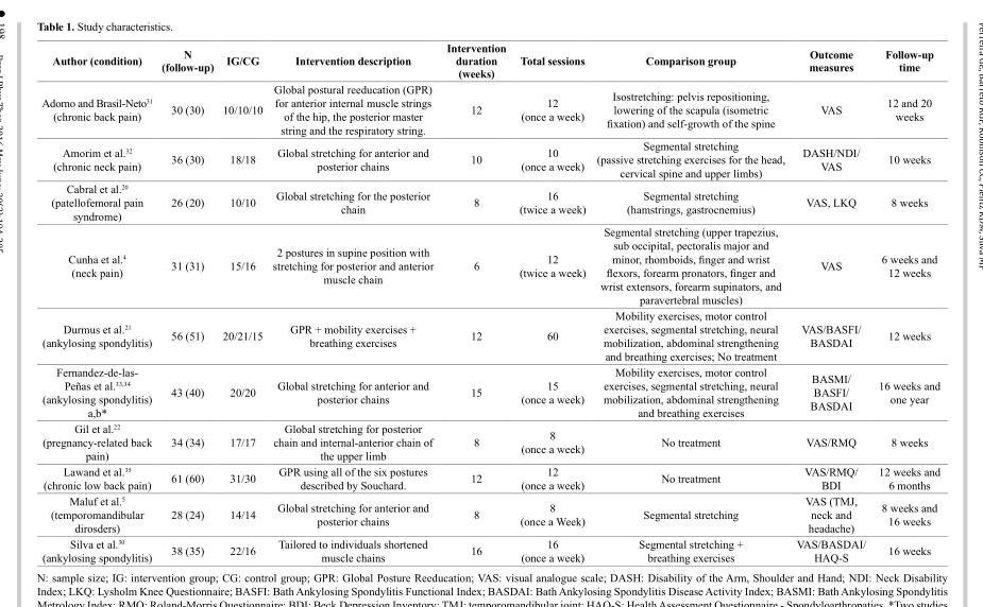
<table><thead><tr><td>Author (condition)</td><td>N (follow-up)</td><td>IG/CG</td><td>Intervention description</td><td>Intervention duration (weeks)</td><td>Total sessions</td><td>Comparison group</td><td>Outcome measures</td><td>Follow-up time</td></tr></thead><tbody><tr><td>Adorno and Brasil-Neto<sup>31</sup> (chronic back pain)</td><td>30 (30)</td><td>10/10/10</td><td>Global postural reeducation (GPR) for anterior internal muscle strings of the hip, the posterior master string and the respiratory string.</td><td>12</td><td>12 (once a week)</td><td>Isostretching: pelvis repositioning, lowering of the scapula (isometric fixation) and self-growth of the spine</td><td>VAS</td><td>12 and 20 weeks</td></tr><tr><td>Amorim et al.<sup>32</sup> (chronic neck pain)</td><td>36 (30)</td><td>18/18</td><td>Global stretching for anterior and posterior chains</td><td>10</td><td>10 (once a week)</td><td>Segmental stretching (passive stretching exercises for the head, cervical spine and upper limbs)</td><td>DASH/NDI/ VAS</td><td>10 weeks</td></tr><tr><td>Cabral et al.<sup>20</sup> (patellofemoral pain syndrome)</td><td>26 (20)</td><td>10/10</td><td>Global stretching for the posterior chain</td><td>8</td><td>16 (twice a week)</td><td>Segmental stretching (hamstrings, gastrocnemius)</td><td>VAS, LKQ</td><td>8 weeks</td></tr><tr><td>Cunha et al.<sup>4</sup> (neck pain)</td><td>31 (31)</td><td>15/16</td><td>2 postures in supine position with stretching for posterior and anterior muscle chain</td><td>6</td><td>12 (twice a week)</td><td>Segmental stretching (upper trapezius, sub occipital, pectoralis major and minor, rhomboids, finger and wrist flexors, forearm pronators, finger and wrist extensors, forearm supinators, and paravertebral muscles)</td><td>VAS</td><td>6 weeks and 12 weeks</td></tr><tr><td>Durmus et al.<sup>21</sup> (ankylosing spondylitis)</td><td>56 (51)</td><td>20/21/15</td><td>GPR + mobility exercises + breathing exercises</td><td>12</td><td>60</td><td>Mobility exercises, motor control exercises, segmental stretching, neural mobilization, abdominal strengthening and breathing exercises; No treatment</td><td>VAS/BASFI/ BASDAI</td><td>12 weeks</td></tr><tr><td>Fernandez-de-las- Peñas et al.<sup>33,34</sup> (ankylosing spondylitis) a,b*</td><td>43 (40)</td><td>20/20</td><td>Global stretching for anterior and posterior chains</td><td>15</td><td>15 (once a week)</td><td>Mobility exercises, motor control exercises, segmental stretching, neural mobilization, abdominal strengthening and breathing exercises</td><td>BASMI/ BASFI/ BASDAI</td><td>16 weeks and one year</td></tr><tr><td>Gil et al.<sup>22</sup> (pregnancy-related back pain)</td><td>34 (34)</td><td>17/17</td><td>Global stretching for posterior chain and internal-anterior chain of the upper limb</td><td>8</td><td>8 (once a week)</td><td>No treatment</td><td>VAS/RMQ</td><td>8 weeks</td></tr><tr><td>Lawand et al.<sup>35</sup> (chronic low back pain)</td><td>61 (60)</td><td>31/30</td><td>GPR using all of the six postures described by Souchard.</td><td>12</td><td>12 (once a week)</td><td>No treatment</td><td>VAS/RMQ/ BDI</td><td>12 weeks and 6 months</td></tr><tr><td>Maluf et al.<sup>5</sup> (temporomandibular dirosders)</td><td>28 (24)</td><td>14/14</td><td>Global stretching for anterior and posterior chains</td><td>8</td><td>8 (once a Week)</td><td>Segmental stretching</td><td>VAS (TMJ, neck and headache)</td><td>8 weeks and 16 weeks</td></tr><tr><td>Silva et al.<sup>30</sup> (ankylosing spondylitis)</td><td>38 (35)</td><td>22/16</td><td>Tailored to individuals shortened muscle chains</td><td>16</td><td>16 (once a week)</td><td>Segmental stretching + breathing exercises</td><td>VAS/BASDAI/ HAQ-S</td><td>16 weeks</td></tr></tbody></table>